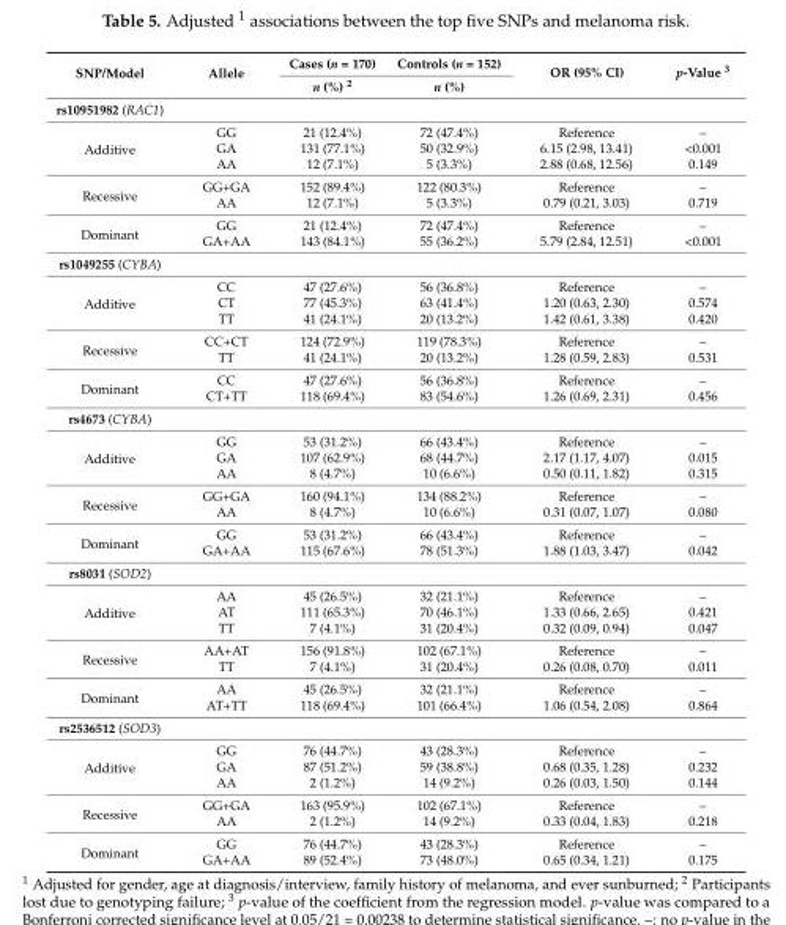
<table><thead><tr><td rowspan="2">SNP/Model</td><td rowspan="2">Allele</td><td rowspan="2">Cases (n = 170) n (%) <sup>2</sup></td><td rowspan="2">Controls (n = 152) n (%)</td><td rowspan="2">OR (95% CI)</td><td rowspan="2">p-Value <sup>3</sup></td></tr><tr></tr></thead><tbody><tr><td colspan="6">rs10951982 (RAC1)</td></tr><tr><td rowspan="3">Additive</td><td>GG</td><td>21 (12.4%)</td><td>72 (47.4%)</td><td>Reference</td><td>–</td></tr><tr><td>GA</td><td>131 (77.1%)</td><td>50 (32.9%)</td><td>6.15 (2.98, 13.41)</td><td>&lt;0.001</td></tr><tr><td>AA</td><td>12 (7.1%)</td><td>5 (3.3%)</td><td>2.88 (0.68, 12.56)</td><td>0.149</td></tr><tr><td rowspan="2">Recessive</td><td>GG+GA</td><td>152 (89.4%)</td><td>122 (80.3%)</td><td>Reference</td><td>–</td></tr><tr><td>AA</td><td>12 (7.1%)</td><td>5 (3.3%)</td><td>0.79 (0.21, 3.03)</td><td>0.719</td></tr><tr><td rowspan="2">Dominant</td><td>GG</td><td>21 (12.4%)</td><td>72 (47.4%)</td><td>Reference</td><td>–</td></tr><tr><td>GA+AA</td><td>143 (84.1%)</td><td>55 (36.2%)</td><td>5.79 (2.84, 12.51)</td><td>&lt;0.001</td></tr><tr><td colspan="6">rs1049255 (CYBA)</td></tr><tr><td rowspan="3">Additive</td><td>CC</td><td>47 (27.6%)</td><td>56 (36.8%)</td><td>Reference</td><td>–</td></tr><tr><td>CT</td><td>77 (45.3%)</td><td>63 (41.4%)</td><td>1.20 (0.63, 2.30)</td><td>0.574</td></tr><tr><td>TT</td><td>41 (24.1%)</td><td>20 (13.2%)</td><td>1.42 (0.61, 3.38)</td><td>0.420</td></tr><tr><td rowspan="2">Recessive</td><td>CC+CT</td><td>124 (72.9%)</td><td>119 (78.3%)</td><td>Reference</td><td>–</td></tr><tr><td>TT</td><td>41 (24.1%)</td><td>20 (13.2%)</td><td>1.28 (0.59, 2.83)</td><td>0.531</td></tr><tr><td rowspan="2">Dominant</td><td>CC</td><td>47 (27.6%)</td><td>56 (36.8%)</td><td>Reference</td><td>–</td></tr><tr><td>CT+TT</td><td>118 (69.4%)</td><td>83 (54.6%)</td><td>1.26 (0.69, 2.31)</td><td>0.456</td></tr><tr><td colspan="6">rs4673 (CYBA)</td></tr><tr><td rowspan="3">Additive</td><td>GG</td><td>53 (31.2%)</td><td>66 (43.4%)</td><td>Reference</td><td>–</td></tr><tr><td>GA</td><td>107 (62.9%)</td><td>68 (44.7%)</td><td>2.17 (1.17, 4.07)</td><td>0.015</td></tr><tr><td>AA</td><td>8 (4.7%)</td><td>10 (6.6%)</td><td>0.50 (0.11, 1.82)</td><td>0.315</td></tr><tr><td rowspan="2">Recessive</td><td>GG+GA</td><td>160 (94.1%)</td><td>134 (88.2%)</td><td>Reference</td><td>–</td></tr><tr><td>AA</td><td>8 (4.7%)</td><td>10 (6.6%)</td><td>0.31 (0.07, 1.07)</td><td>0.080</td></tr><tr><td rowspan="2">Dominant</td><td>GG</td><td>53 (31.2%)</td><td>66 (43.4%)</td><td>Reference</td><td>–</td></tr><tr><td>GA+AA</td><td>115 (67.6%)</td><td>78 (51.3%)</td><td>1.88 (1.03, 3.47)</td><td>0.042</td></tr><tr><td colspan="6">rs8031 (SOD2)</td></tr><tr><td rowspan="3">Additive</td><td>AA</td><td>45 (26.5%)</td><td>32 (21.1%)</td><td>Reference</td><td>–</td></tr><tr><td>AT</td><td>111 (65.3%)</td><td>70 (46.1%)</td><td>1.33 (0.66, 2.65)</td><td>0.421</td></tr><tr><td>TT</td><td>7 (4.1%)</td><td>31 (20.4%)</td><td>0.32 (0.09, 0.94)</td><td>0.047</td></tr><tr><td rowspan="2">Recessive</td><td>AA+AT</td><td>156 (91.8%)</td><td>102 (67.1%)</td><td>Reference</td><td>–</td></tr><tr><td>TT</td><td>7 (4.1%)</td><td>31 (20.4%)</td><td>0.26 (0.08, 0.70)</td><td>0.011</td></tr><tr><td rowspan="2">Dominant</td><td>AA</td><td>45 (26.5%)</td><td>32 (21.1%)</td><td>Reference</td><td>–</td></tr><tr><td>AT+TT</td><td>118 (69.4%)</td><td>101 (66.4%)</td><td>1.06 (0.54, 2.08)</td><td>0.864</td></tr><tr><td colspan="6">rs2536512 (SOD3)</td></tr><tr><td rowspan="3">Additive</td><td>GG</td><td>76 (44.7%)</td><td>43 (28.3%)</td><td>Reference</td><td>–</td></tr><tr><td>GA</td><td>87 (51.2%)</td><td>59 (38.8%)</td><td>0.68 (0.35, 1.28)</td><td>0.232</td></tr><tr><td>AA</td><td>2 (1.2%)</td><td>14 (9.2%)</td><td>0.26 (0.03, 1.50)</td><td>0.144</td></tr><tr><td rowspan="2">Recessive</td><td>GG+GA</td><td>163 (95.9%)</td><td>102 (67.1%)</td><td>Reference</td><td>–</td></tr><tr><td>AA</td><td>2 (1.2%)</td><td>14 (9.2%)</td><td>0.33 (0.04, 1.83)</td><td>0.218</td></tr><tr><td rowspan="2">Dominant</td><td>GG</td><td>76 (44.7%)</td><td>43 (28.3%)</td><td>Reference</td><td>–</td></tr><tr><td>GA+AA</td><td>89 (52.4%)</td><td>73 (48.0%)</td><td>0.65 (0.34, 1.21)</td><td>0.175</td></tr></tbody></table>